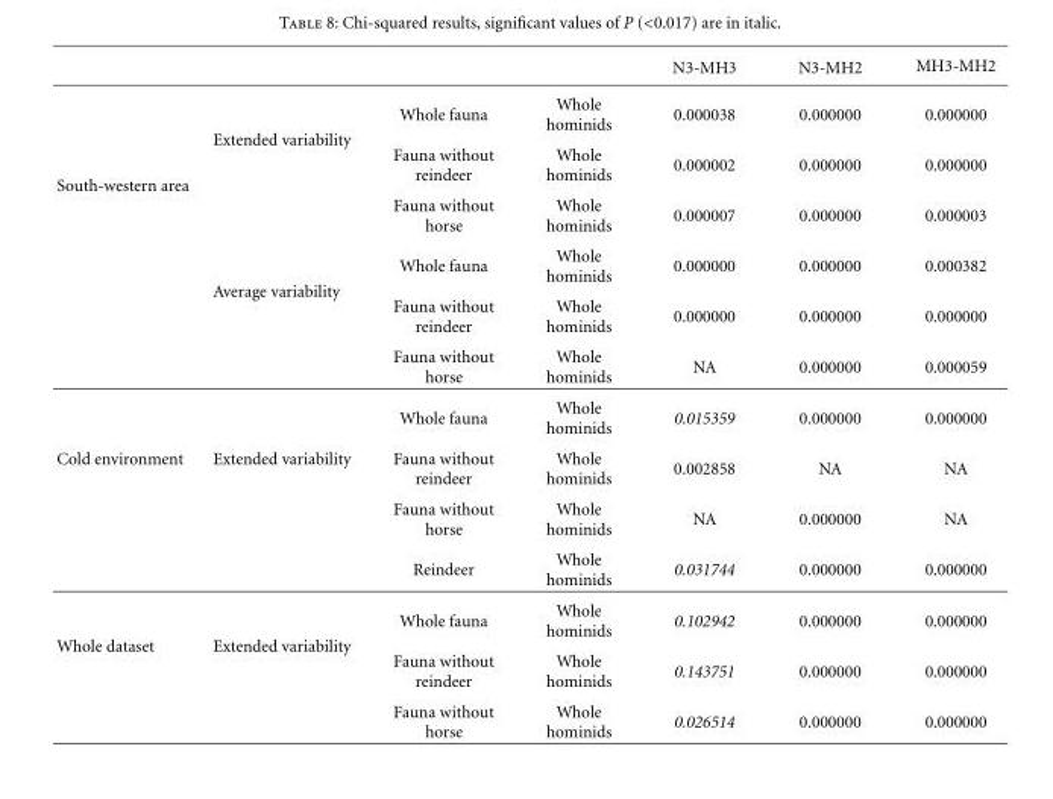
<table><thead><tr><td></td><td></td><td></td><td></td><td>N3-MH3</td><td>N3-MH2</td><td>MH3-MH2</td></tr></thead><tbody><tr><td rowspan="6">South-western area</td><td rowspan="3">Extended variability</td><td>Whole fauna</td><td>Whole hominids</td><td>0.000038</td><td>0.000000</td><td>0.000000</td></tr><tr><td>Fauna without reindeer</td><td>Whole hominids</td><td>0.000002</td><td>0.000000</td><td>0.000000</td></tr><tr><td>Fauna without horse</td><td>Whole hominids</td><td>0.000007</td><td>0.000000</td><td>0.000003</td></tr><tr><td rowspan="3">Average variability</td><td>Whole fauna</td><td>Whole hominids</td><td>0.000000</td><td>0.000000</td><td>0.000382</td></tr><tr><td>Fauna without reindeer</td><td>Whole hominids</td><td>0.000000</td><td>0.000000</td><td>0.000000</td></tr><tr><td>Fauna without horse</td><td>Whole hominids</td><td>NA</td><td>0.000000</td><td>0.000059</td></tr><tr><td rowspan="4">Cold environment</td><td rowspan="4">Extended variability</td><td>Whole fauna</td><td>Whole hominids</td><td>0.015359</td><td>0.000000</td><td>0.000000</td></tr><tr><td>Fauna without reindeer</td><td>Whole hominids</td><td>0.002858</td><td>NA</td><td>NA</td></tr><tr><td>Fauna without horse</td><td>Whole hominids</td><td>NA</td><td>0.000000</td><td>NA</td></tr><tr><td>Reindeer</td><td>Whole hominids</td><td>0.031744</td><td>0.000000</td><td>0.000000</td></tr><tr><td rowspan="3">Whole dataset</td><td rowspan="3">Extended variability</td><td>Whole fauna</td><td>Whole hominids</td><td>0.102942</td><td>0.000000</td><td>0.000000</td></tr><tr><td>Fauna without reindeer</td><td>Whole hominids</td><td>0.143751</td><td>0.000000</td><td>0.000000</td></tr><tr><td>Fauna without horse</td><td>Whole hominids</td><td>0.026514</td><td>0.000000</td><td>0.000000</td></tr></tbody></table>